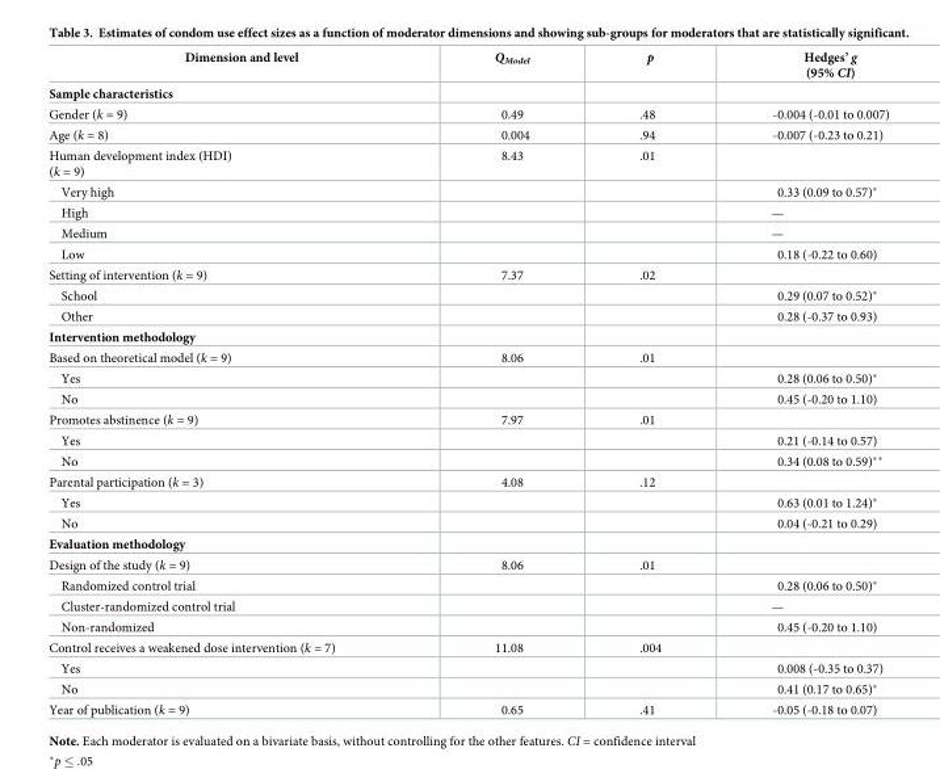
<table><thead><tr><td>Dimension and level</td><td>Q<sub>Model</sub></td><td>p</td><td>Hedges’ g (95% CI)</td></tr></thead><tbody><tr><td colspan="4">Sample characteristics</td></tr><tr><td>Gender (k = 9)</td><td>0.49</td><td>.48</td><td>-0.004 (-0.01 to 0.007)</td></tr><tr><td>Age (k = 8)</td><td>0.004</td><td>.94</td><td>-0.007 (-0.23 to 0.21)</td></tr><tr><td>Human development index (HDI) (k = 9)</td><td>8.43</td><td>.01</td><td></td></tr><tr><td>Very high</td><td></td><td></td><td>0.33 (0.09 to 0.57)*</td></tr><tr><td>High</td><td></td><td></td><td>—</td></tr><tr><td>Medium</td><td></td><td></td><td>—</td></tr><tr><td>Low</td><td></td><td></td><td>0.18 (-0.22 to 0.60)</td></tr><tr><td>Setting of intervention (k = 9)</td><td>7.37</td><td>.02</td><td></td></tr><tr><td>School</td><td></td><td></td><td>0.29 (0.07 to 0.52)*</td></tr><tr><td>Other</td><td></td><td></td><td>0.28 (-0.37 to 0.93)</td></tr><tr><td colspan="4">Intervention methodology</td></tr><tr><td>Based on theoretical model (k = 9)</td><td>8.06</td><td>.01</td><td></td></tr><tr><td>Yes</td><td></td><td></td><td>0.28 (0.06 to 0.50)*</td></tr><tr><td>No</td><td></td><td></td><td>0.45 (-0.20 to 1.10)</td></tr><tr><td>Promotes abstinence (k = 9)</td><td>7.97</td><td>.01</td><td></td></tr><tr><td>Yes</td><td></td><td></td><td>0.21 (-0.14 to 0.57)</td></tr><tr><td>No</td><td></td><td></td><td>0.34 (0.08 to 0.59)**</td></tr><tr><td>Parental participation (k = 3)</td><td>4.08</td><td>.12</td><td></td></tr><tr><td>Yes</td><td></td><td></td><td>0.63 (0.01 to 1.24)*</td></tr><tr><td>No</td><td></td><td></td><td>0.04 (-0.21 to 0.29)</td></tr><tr><td colspan="4">Evaluation methodology</td></tr><tr><td>Design of the study (k = 9)</td><td>8.06</td><td>.01</td><td></td></tr><tr><td>Randomized control trial</td><td></td><td></td><td>0.28 (0.06 to 0.50)*</td></tr><tr><td>Cluster-randomized control trial</td><td></td><td></td><td>—</td></tr><tr><td>Non-randomized</td><td></td><td></td><td>0.45 (-0.20 to 1.10)</td></tr><tr><td>Control receives a weakened dose intervention (k = 7)</td><td>11.08</td><td>.004</td><td></td></tr><tr><td>Yes</td><td></td><td></td><td>0.008 (-0.35 to 0.37)</td></tr><tr><td>No</td><td></td><td></td><td>0.41 (0.17 to 0.65)*</td></tr><tr><td>Year of publication (k = 9)</td><td>0.65</td><td>.41</td><td>-0.05 (-0.18 to 0.07)</td></tr></tbody></table>